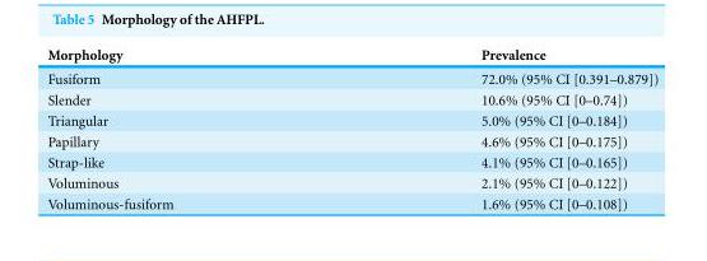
<table><thead><tr><td>Morphology</td><td>Prevalence</td></tr></thead><tbody><tr><td>Fusiform</td><td>72.0% (95% CI [0.391–0.879])</td></tr><tr><td>Slender</td><td>10.6% (95% CI [0–0.74])</td></tr><tr><td>Triangular</td><td>5.0% (95% CI [0–0.184])</td></tr><tr><td>Papillary</td><td>4.6% (95% CI [0–0.175])</td></tr><tr><td>Strap-like</td><td>4.1% (95% CI [0–0.165])</td></tr><tr><td>Voluminous</td><td>2.1% (95% CI [0–0.122])</td></tr><tr><td>Voluminous-fusiform</td><td>1.6% (95% CI [0–0.108])</td></tr></tbody></table>